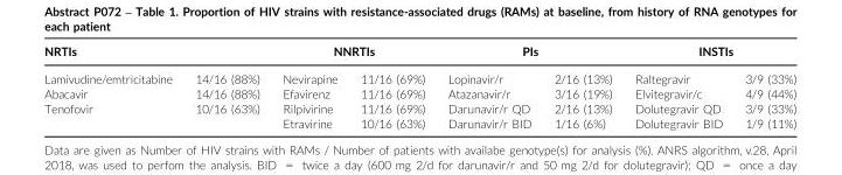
<table><thead><tr><td colspan="2">NRTIs</td><td colspan="2">NNRTIs</td><td colspan="2">PIs</td><td colspan="2">INSTIs</td></tr><tr><td>Lamivudine/emtricitabine</td><td>14/16 (88%)</td><td>Nevirapine</td><td>11/16 (69%)</td><td>Lopinavir/r</td><td>2/16 (13%)</td><td>Raltegravir</td><td>3/9 (33%)</td></tr></thead><tbody><tr><td>Abacavir</td><td>14/16 (88%)</td><td>Efavirenz</td><td>11/16 (69%)</td><td>Atazanavir/r</td><td>3/16 (19%)</td><td>Elvitegravir/c</td><td>4/9 (44%)</td></tr><tr><td rowspan="2">Tenofovir</td><td>10/16 (63%)</td><td>Rilpivirine</td><td>11/16 (69%)</td><td>Darunavir/r QD</td><td>2/16 (13%)</td><td>Dolutegravir QD</td><td>3/9 (33%)</td></tr><tr><td></td><td>Etravirine</td><td>10/16 (63%)</td><td>Darunavir/r BID</td><td>1/16 (6%)</td><td>Dolutegravir BID</td><td>1/9 (11%)</td></tr></tbody></table>